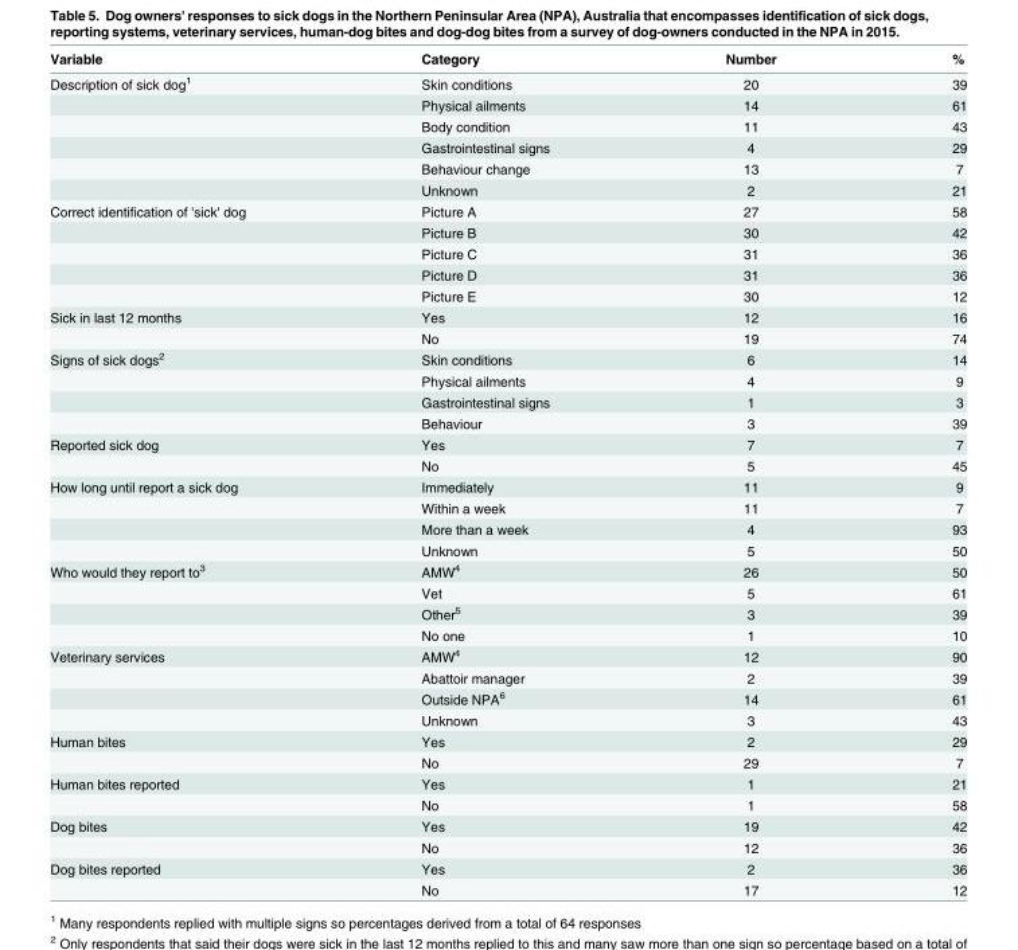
<table><thead><tr><td>Variable</td><td>Category</td><td>Number</td><td>%</td></tr></thead><tbody><tr><td rowspan="6">Description of sick dog<sup>1</sup></td><td>Skin conditions</td><td>20</td><td>39</td></tr><tr><td>Physical ailments</td><td>14</td><td>61</td></tr><tr><td>Body condition</td><td>11</td><td>43</td></tr><tr><td>Gastrointestinal signs</td><td>4</td><td>29</td></tr><tr><td>Behaviour change</td><td>13</td><td>7</td></tr><tr><td>Unknown</td><td>2</td><td>21</td></tr><tr><td rowspan="5">Correct identification of &#x27;sick&#x27; dog</td><td>Picture A</td><td>27</td><td>58</td></tr><tr><td>Picture B</td><td>30</td><td>42</td></tr><tr><td>Picture C</td><td>31</td><td>36</td></tr><tr><td>Picture D</td><td>31</td><td>36</td></tr><tr><td>Picture E</td><td>30</td><td>12</td></tr><tr><td rowspan="2">Sick in last 12 months</td><td>Yes</td><td>12</td><td>16</td></tr><tr><td>No</td><td>19</td><td>74</td></tr><tr><td rowspan="4">Signs of sick dogs<sup>2</sup></td><td>Skin conditions</td><td>6</td><td>14</td></tr><tr><td>Physical ailments</td><td>4</td><td>9</td></tr><tr><td>Gastrointestinal signs</td><td>1</td><td>3</td></tr><tr><td>Behaviour</td><td>3</td><td>39</td></tr><tr><td rowspan="2">Reported sick dog</td><td>Yes</td><td>7</td><td>7</td></tr><tr><td>No</td><td>5</td><td>45</td></tr><tr><td rowspan="4">How long until report a sick dog</td><td>Immediately</td><td>11</td><td>9</td></tr><tr><td>Within a week</td><td>11</td><td>7</td></tr><tr><td>More than a week</td><td>4</td><td>93</td></tr><tr><td>Unknown</td><td>5</td><td>50</td></tr><tr><td rowspan="4">Who would they report to<sup>3</sup></td><td>AMW<sup>4</sup></td><td>26</td><td>50</td></tr><tr><td>Vet</td><td>5</td><td>61</td></tr><tr><td>Other<sup>5</sup></td><td>3</td><td>39</td></tr><tr><td>No one</td><td>1</td><td>10</td></tr><tr><td rowspan="4">Veterinary services</td><td>AMW<sup>4</sup></td><td>12</td><td>90</td></tr><tr><td>Abattoir manager</td><td>2</td><td>39</td></tr><tr><td>Outside NPA<sup>6</sup></td><td>14</td><td>61</td></tr><tr><td>Unknown</td><td>3</td><td>43</td></tr><tr><td rowspan="2">Human bites</td><td>Yes</td><td>2</td><td>29</td></tr><tr><td>No</td><td>29</td><td>7</td></tr><tr><td rowspan="2">Human bites reported</td><td>Yes</td><td>1</td><td>21</td></tr><tr><td>No</td><td>1</td><td>58</td></tr><tr><td rowspan="2">Dog bites</td><td>Yes</td><td>19</td><td>42</td></tr><tr><td>No</td><td>12</td><td>36</td></tr><tr><td rowspan="2">Dog bites reported</td><td>Yes</td><td>2</td><td>36</td></tr><tr><td>No</td><td>17</td><td>12</td></tr></tbody></table>